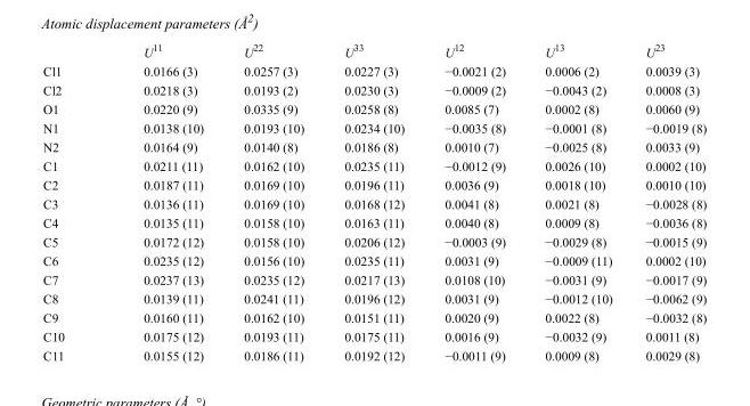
<table><thead><tr><td></td><td>U<sup>11</sup></td><td>U<sup>22</sup></td><td>U<sup>33</sup></td><td>U<sup>12</sup></td><td>U<sup>13</sup></td><td>U<sup>23</sup></td></tr></thead><tbody><tr><td>Cl1</td><td>0.0166 (3)</td><td>0.0257 (3)</td><td>0.0227 (3)</td><td>−0.0021 (2)</td><td>0.0006 (2)</td><td>0.0039 (3)</td></tr><tr><td>Cl2</td><td>0.0218 (3)</td><td>0.0193 (2)</td><td>0.0230 (3)</td><td>−0.0009 (2)</td><td>−0.0043 (2)</td><td>0.0008 (3)</td></tr><tr><td>O1</td><td>0.0220 (9)</td><td>0.0335 (9)</td><td>0.0258 (8)</td><td>0.0085 (7)</td><td>0.0002 (8)</td><td>0.0060 (9)</td></tr><tr><td>N1</td><td>0.0138 (10)</td><td>0.0193 (10)</td><td>0.0234 (10)</td><td>−0.0035 (8)</td><td>−0.0001 (8)</td><td>−0.0019 (8)</td></tr><tr><td>N2</td><td>0.0164 (9)</td><td>0.0140 (8)</td><td>0.0186 (8)</td><td>0.0010 (7)</td><td>−0.0025 (8)</td><td>0.0033 (9)</td></tr><tr><td>C1</td><td>0.0211 (11)</td><td>0.0162 (10)</td><td>0.0235 (11)</td><td>−0.0012 (9)</td><td>0.0026 (10)</td><td>0.0002 (10)</td></tr><tr><td>C2</td><td>0.0187 (11)</td><td>0.0169 (10)</td><td>0.0196 (11)</td><td>0.0036 (9)</td><td>0.0018 (10)</td><td>0.0010 (10)</td></tr><tr><td>C3</td><td>0.0136 (11)</td><td>0.0169 (10)</td><td>0.0168 (12)</td><td>0.0041 (8)</td><td>0.0021 (8)</td><td>−0.0028 (8)</td></tr><tr><td>C4</td><td>0.0135 (11)</td><td>0.0158 (10)</td><td>0.0163 (11)</td><td>0.0040 (8)</td><td>0.0009 (8)</td><td>−0.0036 (8)</td></tr><tr><td>C5</td><td>0.0172 (12)</td><td>0.0158 (10)</td><td>0.0206 (12)</td><td>−0.0003 (9)</td><td>−0.0029 (8)</td><td>−0.0015 (9)</td></tr><tr><td>C6</td><td>0.0235 (12)</td><td>0.0156 (10)</td><td>0.0235 (11)</td><td>0.0031 (9)</td><td>−0.0009 (11)</td><td>0.0002 (10)</td></tr><tr><td>C7</td><td>0.0237 (13)</td><td>0.0235 (12)</td><td>0.0217 (13)</td><td>0.0108 (10)</td><td>−0.0031 (9)</td><td>−0.0017 (9)</td></tr><tr><td>C8</td><td>0.0139 (11)</td><td>0.0241 (11)</td><td>0.0196 (12)</td><td>0.0031 (9)</td><td>−0.0012 (10)</td><td>−0.0062 (9)</td></tr><tr><td>C9</td><td>0.0160 (11)</td><td>0.0162 (10)</td><td>0.0151 (11)</td><td>0.0020 (9)</td><td>0.0022 (8)</td><td>−0.0032 (8)</td></tr><tr><td>C10</td><td>0.0175 (12)</td><td>0.0193 (11)</td><td>0.0175 (11)</td><td>0.0016 (9)</td><td>−0.0032 (9)</td><td>0.0011 (8)</td></tr><tr><td>C11</td><td>0.0155 (12)</td><td>0.0186 (11)</td><td>0.0192 (12)</td><td>−0.0011 (9)</td><td>0.0009 (8)</td><td>0.0029 (8)</td></tr></tbody></table>